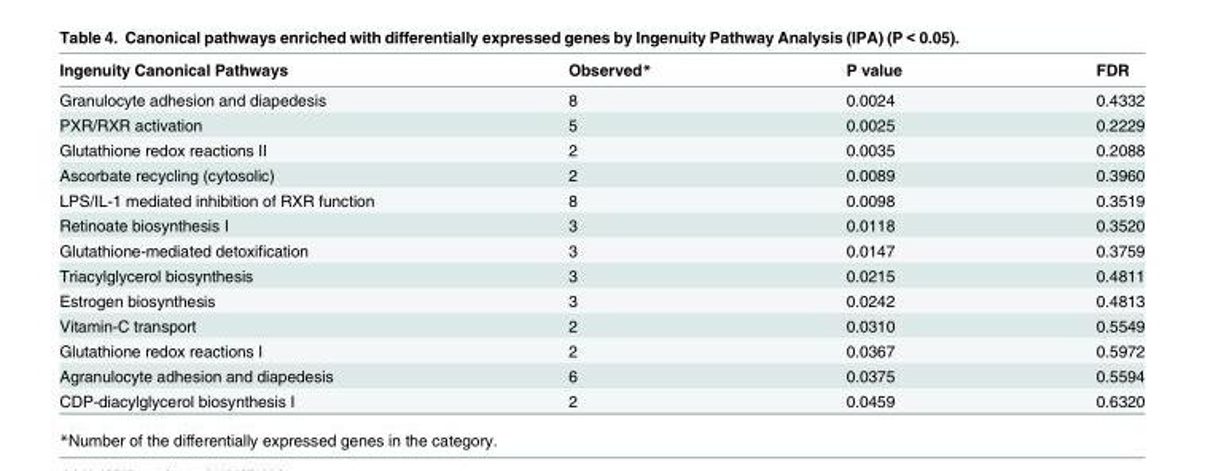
<table><thead><tr><td>Ingenuity Canonical Pathways</td><td>Observed*</td><td>P value</td><td>FDR</td></tr></thead><tbody><tr><td>Granulocyte adhesion and diapedesis</td><td>8</td><td>0.0024</td><td>0.4332</td></tr><tr><td>PXR/RXR activation</td><td>5</td><td>0.0025</td><td>0.2229</td></tr><tr><td>Glutathione redox reactions II</td><td>2</td><td>0.0035</td><td>0.2088</td></tr><tr><td>Ascorbate recycling (cytosolic)</td><td>2</td><td>0.0089</td><td>0.3960</td></tr><tr><td>LPS/IL-1 mediated inhibition of RXR function</td><td>8</td><td>0.0098</td><td>0.3519</td></tr><tr><td>Retinoate biosynthesis I</td><td>3</td><td>0.0118</td><td>0.3520</td></tr><tr><td>Glutathione-mediated detoxification</td><td>3</td><td>0.0147</td><td>0.3759</td></tr><tr><td>Triacylglycerol biosynthesis</td><td>3</td><td>0.0215</td><td>0.4811</td></tr><tr><td>Estrogen biosynthesis</td><td>3</td><td>0.0242</td><td>0.4813</td></tr><tr><td>Vitamin-C transport</td><td>2</td><td>0.0310</td><td>0.5549</td></tr><tr><td>Glutathione redox reactions I</td><td>2</td><td>0.0367</td><td>0.5972</td></tr><tr><td>Agranulocyte adhesion and diapedesis</td><td>6</td><td>0.0375</td><td>0.5594</td></tr><tr><td>CDP-diacylglycerol biosynthesis I</td><td>2</td><td>0.0459</td><td>0.6320</td></tr></tbody></table>